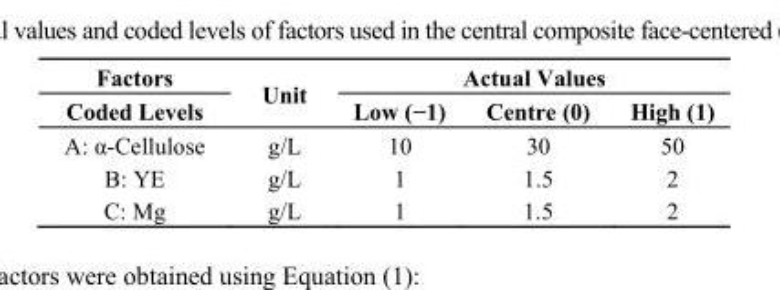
<table><thead><tr><td rowspan="2">Factors Coded Levels</td><td rowspan="2">Unit</td><td colspan="3">Actual Values</td></tr><tr><td>Low (−1)</td><td>Centre (0)</td><td>High (1)</td></tr></thead><tbody><tr><td>A: α-Cellulose</td><td>g/L</td><td>10</td><td>30</td><td>50</td></tr><tr><td>B: YE</td><td>g/L</td><td>1</td><td>1.5</td><td>2</td></tr><tr><td>C: Mg</td><td>g/L</td><td>1</td><td>1.5</td><td>2</td></tr></tbody></table>